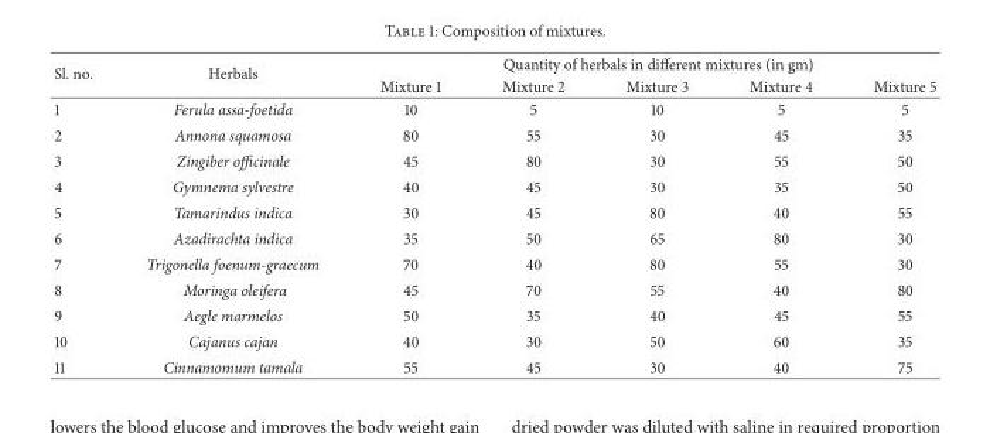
<table><thead><tr><td rowspan="2">Sl. no.</td><td rowspan="2">Herbals</td><td colspan="5">Quantity of herbals in different mixtures (in gm)</td></tr><tr><td>Mixture 1</td><td>Mixture 2</td><td>Mixture 3</td><td>Mixture 4</td><td>Mixture 5</td></tr></thead><tbody><tr><td>1</td><td>Ferula assa-foetida</td><td>10</td><td>5</td><td>10</td><td>5</td><td>5</td></tr><tr><td>2</td><td>Annona squamosa</td><td>80</td><td>55</td><td>30</td><td>45</td><td>35</td></tr><tr><td>3</td><td>Zingiber officinale</td><td>45</td><td>80</td><td>30</td><td>55</td><td>50</td></tr><tr><td>4</td><td>Gymnema sylvestre</td><td>40</td><td>45</td><td>30</td><td>35</td><td>50</td></tr><tr><td>5</td><td>Tamarindus indica</td><td>30</td><td>45</td><td>80</td><td>40</td><td>55</td></tr><tr><td>6</td><td>Azadirachta indica</td><td>35</td><td>50</td><td>65</td><td>80</td><td>30</td></tr><tr><td>7</td><td>Trigonella foenum-graecum</td><td>70</td><td>40</td><td>80</td><td>55</td><td>30</td></tr><tr><td>8</td><td>Moringa oleifera</td><td>45</td><td>70</td><td>55</td><td>40</td><td>80</td></tr><tr><td>9</td><td>Aegle marmelos</td><td>50</td><td>35</td><td>40</td><td>45</td><td>55</td></tr><tr><td>10</td><td>Cajanus cajan</td><td>40</td><td>30</td><td>50</td><td>60</td><td>35</td></tr><tr><td>11</td><td>Cinnamomum tamala</td><td>55</td><td>45</td><td>30</td><td>40</td><td>75</td></tr></tbody></table>